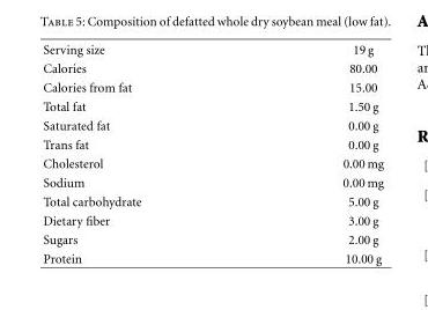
<table><tbody><tr><td>Serving size</td><td>19 g</td></tr><tr><td>Calories</td><td>80.00</td></tr><tr><td>Calories from fat</td><td>15.00</td></tr><tr><td>Total fat</td><td>1.50 g</td></tr><tr><td>Saturated fat</td><td>0.00 g</td></tr><tr><td>Trans fat</td><td>0.00 g</td></tr><tr><td>Cholesterol</td><td>0.00 mg</td></tr><tr><td>Sodium</td><td>0.00 mg</td></tr><tr><td>Total carbohydrate</td><td>5.00 g</td></tr><tr><td>Dietary fiber</td><td>3.00 g</td></tr><tr><td>Sugars</td><td>2.00 g</td></tr><tr><td>Protein</td><td>10.00 g</td></tr></tbody></table>